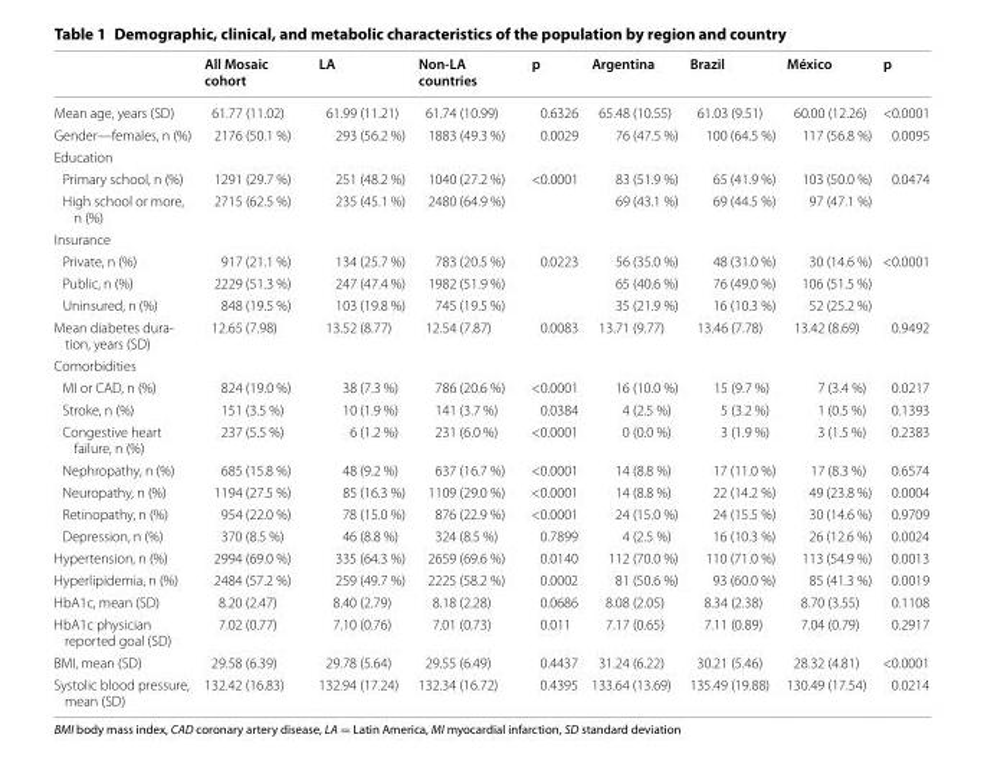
<table><thead><tr><td></td><td>All Mosaic cohort</td><td>LA</td><td>Non‑LA countries</td><td>p</td><td>Argentina</td><td>Brazil</td><td>México</td><td>p</td></tr></thead><tbody><tr><td>Mean age, years (SD)</td><td>61.77 (11.02)</td><td>61.99 (11.21)</td><td>61.74 (10.99)</td><td>0.6326</td><td>65.48 (10.55)</td><td>61.03 (9.51)</td><td>60.00 (12.26)</td><td>&lt;0.0001</td></tr><tr><td>Gender—females, n (%)</td><td>2176 (50.1 %)</td><td>293 (56.2 %)</td><td>1883 (49.3 %)</td><td>0.0029</td><td>76 (47.5 %)</td><td>100 (64.5 %)</td><td>117 (56.8 %)</td><td>0.0095</td></tr><tr><td colspan="9">Education</td></tr><tr><td>Primary school, n (%)</td><td>1291 (29.7 %)</td><td>251 (48.2 %)</td><td>1040 (27.2 %)</td><td rowspan="2">&lt;0.0001</td><td>83 (51.9 %)</td><td>65 (41.9 %)</td><td>103 (50.0 %)</td><td rowspan="2">0.0474</td></tr><tr><td>High school or more, n (%)</td><td>2715 (62.5 %)</td><td>235 (45.1 %)</td><td>2480 (64.9 %)</td><td>69 (43.1 %)</td><td>69 (44.5 %)</td><td>97 (47.1 %)</td></tr><tr><td colspan="9">Insurance</td></tr><tr><td>Private, n (%)</td><td>917 (21.1 %)</td><td>134 (25.7 %)</td><td>783 (20.5 %)</td><td rowspan="3">0.0223</td><td>56 (35.0 %)</td><td>48 (31.0 %)</td><td>30 (14.6 %)</td><td rowspan="3">&lt;0.0001</td></tr><tr><td>Public, n (%)</td><td>2229 (51.3 %)</td><td>247 (47.4 %)</td><td>1982 (51.9 %)</td><td>65 (40.6 %)</td><td>76 (49.0 %)</td><td>106 (51.5 %)</td></tr><tr><td>Uninsured, n (%)</td><td>848 (19.5 %)</td><td>103 (19.8 %)</td><td>745 (19.5 %)</td><td>35 (21.9 %)</td><td>16 (10.3 %)</td><td>52 (25.2 %)</td></tr><tr><td>Mean diabetes dura- tion, years (SD)</td><td>12.65 (7.98)</td><td>13.52 (8.77)</td><td>12.54 (7.87)</td><td>0.0083</td><td>13.71 (9.77)</td><td>13.46 (7.78)</td><td>13.42 (8.69)</td><td>0.9492</td></tr><tr><td colspan="9">Comorbidities</td></tr><tr><td>MI or CAD, n (%)</td><td>824 (19.0 %)</td><td>38 (7.3 %)</td><td>786 (20.6 %)</td><td>&lt;0.0001</td><td>16 (10.0 %)</td><td>15 (9.7 %)</td><td>7 (3.4 %)</td><td>0.0217</td></tr><tr><td>Stroke, n (%)</td><td>151 (3.5 %)</td><td>10 (1.9 %)</td><td>141 (3.7 %)</td><td>0.0384</td><td>4 (2.5 %)</td><td>5 (3.2 %)</td><td>1 (0.5 %)</td><td>0.1393</td></tr><tr><td>Congestive heart failure, n (%)</td><td>237 (5.5 %)</td><td>6 (1.2 %)</td><td>231 (6.0 %)</td><td>&lt;0.0001</td><td>0 (0.0 %)</td><td>3 (1.9 %)</td><td>3 (1.5 %)</td><td>0.2383</td></tr><tr><td>Nephropathy, n (%)</td><td>685 (15.8 %)</td><td>48 (9.2 %)</td><td>637 (16.7 %)</td><td>&lt;0.0001</td><td>14 (8.8 %)</td><td>17 (11.0 %)</td><td>17 (8.3 %)</td><td>0.6574</td></tr><tr><td>Neuropathy, n (%)</td><td>1194 (27.5 %)</td><td>85 (16.3 %)</td><td>1109 (29.0 %)</td><td>&lt;0.0001</td><td>14 (8.8 %)</td><td>22 (14.2 %)</td><td>49 (23.8 %)</td><td>0.0004</td></tr><tr><td>Retinopathy, n (%)</td><td>954 (22.0 %)</td><td>78 (15.0 %)</td><td>876 (22.9 %)</td><td>&lt;0.0001</td><td>24 (15.0 %)</td><td>24 (15.5 %)</td><td>30 (14.6 %)</td><td>0.9709</td></tr><tr><td>Depression, n (%)</td><td>370 (8.5 %)</td><td>46 (8.8 %)</td><td>324 (8.5 %)</td><td>0.7899</td><td>4 (2.5 %)</td><td>16 (10.3 %)</td><td>26 (12.6 %)</td><td>0.0024</td></tr><tr><td>Hypertension, n (%)</td><td>2994 (69.0 %)</td><td>335 (64.3 %)</td><td>2659 (69.6 %)</td><td>0.0140</td><td>112 (70.0 %)</td><td>110 (71.0 %)</td><td>113 (54.9 %)</td><td>0.0013</td></tr><tr><td>Hyperlipidemia, n (%)</td><td>2484 (57.2 %)</td><td>259 (49.7 %)</td><td>2225 (58.2 %)</td><td>0.0002</td><td>81 (50.6 %)</td><td>93 (60.0 %)</td><td>85 (41.3 %)</td><td>0.0019</td></tr><tr><td>HbA1c, mean (SD)</td><td>8.20 (2.47)</td><td>8.40 (2.79)</td><td>8.18 (2.28)</td><td>0.0686</td><td>8.08 (2.05)</td><td>8.34 (2.38)</td><td>8.70 (3.55)</td><td>0.1108</td></tr><tr><td>HbA1c physician reported goal (SD)</td><td>7.02 (0.77)</td><td>7.10 (0.76)</td><td>7.01 (0.73)</td><td>0.011</td><td>7.17 (0.65)</td><td>7.11 (0.89)</td><td>7.04 (0.79)</td><td>0.2917</td></tr><tr><td>BMI, mean (SD)</td><td>29.58 (6.39)</td><td>29.78 (5.64)</td><td>29.55 (6.49)</td><td>0.4437</td><td>31.24 (6.22)</td><td>30.21 (5.46)</td><td>28.32 (4.81)</td><td>&lt;0.0001</td></tr><tr><td>Systolic blood pressure, mean (SD)</td><td>132.42 (16.83)</td><td>132.94 (17.24)</td><td>132.34 (16.72)</td><td>0.4395</td><td>133.64 (13.69)</td><td>135.49 (19.88)</td><td>130.49 (17.54)</td><td>0.0214</td></tr></tbody></table>